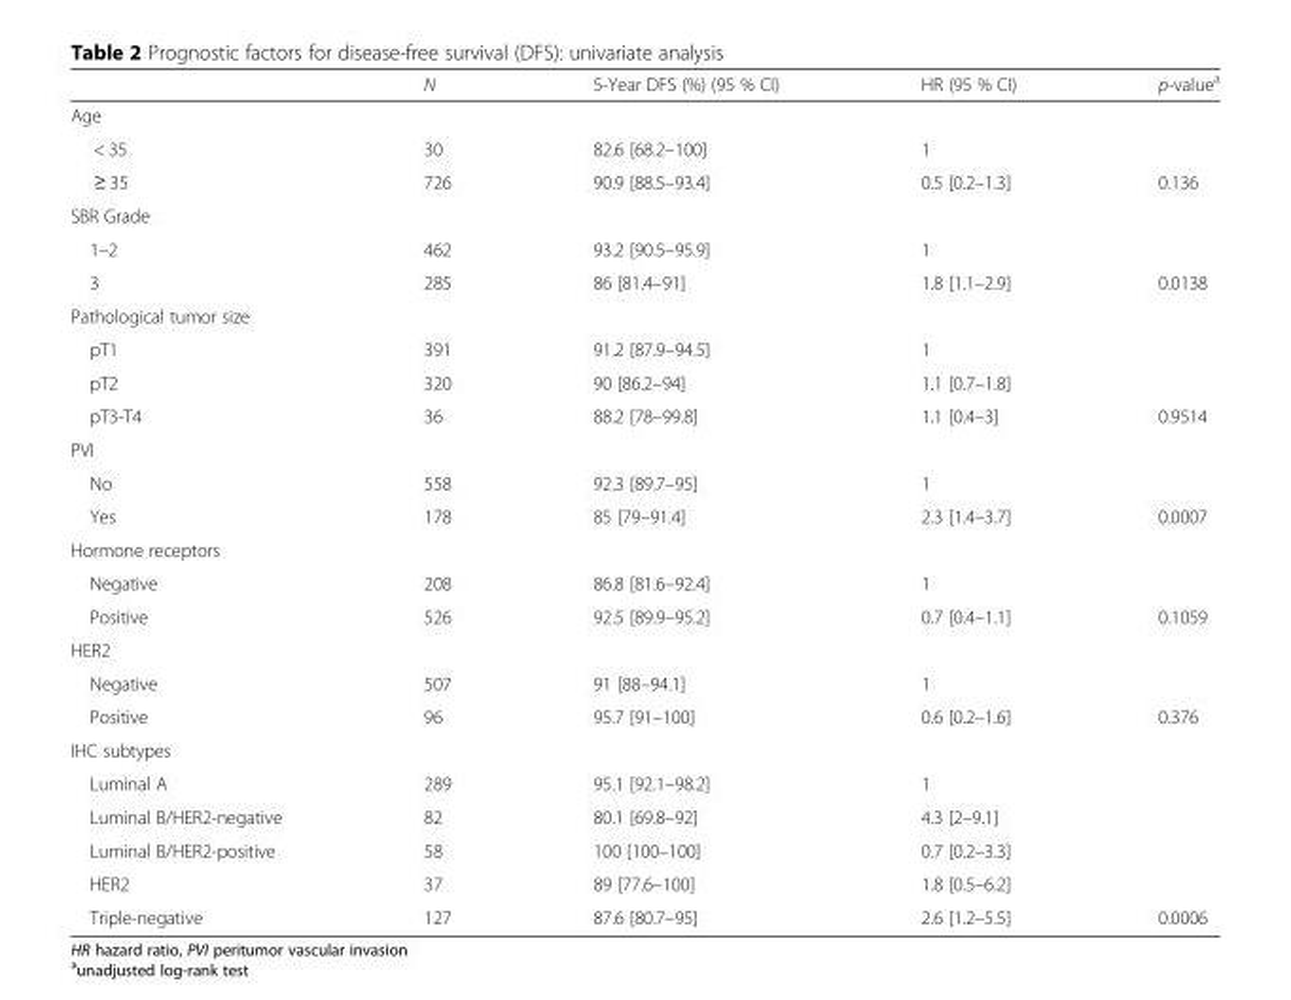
<table><thead><tr><td></td><td>N</td><td>5-Year DFS (%) (95 % CI)</td><td>HR (95 % CI)</td><td>p-value<sup>a</sup></td></tr></thead><tbody><tr><td colspan="5">Age</td></tr><tr><td>&lt; 35</td><td>30</td><td>82.6 [68.2–100]</td><td>1</td><td></td></tr><tr><td>≥ 35</td><td>726</td><td>90.9 [88.5–93.4]</td><td>0.5 [0.2–1.3]</td><td>0.136</td></tr><tr><td colspan="5">SBR Grade</td></tr><tr><td>1–2</td><td>462</td><td>93.2 [90.5–95.9]</td><td>1</td><td></td></tr><tr><td>3</td><td>285</td><td>86 [81.4–91]</td><td>1.8 [1.1–2.9]</td><td>0.0138</td></tr><tr><td colspan="5">Pathological tumor size</td></tr><tr><td>pT1</td><td>391</td><td>91.2 [87.9–94.5]</td><td>1</td><td></td></tr><tr><td>pT2</td><td>320</td><td>90 [86.2–94]</td><td>1.1 [0.7–1.8]</td><td></td></tr><tr><td>pT3-T4</td><td>36</td><td>88.2 [78–99.8]</td><td>1.1 [0.4–3]</td><td>0.9514</td></tr><tr><td colspan="5">PVI</td></tr><tr><td>No</td><td>558</td><td>92.3 [89.7–95]</td><td>1</td><td></td></tr><tr><td>Yes</td><td>178</td><td>85 [79–91.4]</td><td>2.3 [1.4–3.7]</td><td>0.0007</td></tr><tr><td colspan="5">Hormone receptors</td></tr><tr><td>Negative</td><td>208</td><td>86.8 [81.6–92.4]</td><td>1</td><td></td></tr><tr><td>Positive</td><td>526</td><td>92.5 [89.9–95.2]</td><td>0.7 [0.4–1.1]</td><td>0.1059</td></tr><tr><td colspan="5">HER2</td></tr><tr><td>Negative</td><td>507</td><td>91 [88–94.1]</td><td>1</td><td></td></tr><tr><td>Positive</td><td>96</td><td>95.7 [91–100]</td><td>0.6 [0.2–1.6]</td><td>0.376</td></tr><tr><td colspan="5">IHC subtypes</td></tr><tr><td>Luminal A</td><td>289</td><td>95.1 [92.1–98.2]</td><td>1</td><td></td></tr><tr><td>Luminal B/HER2-negative</td><td>82</td><td>80.1 [69.8–92]</td><td>4.3 [2–9.1]</td><td></td></tr><tr><td>Luminal B/HER2-positive</td><td>58</td><td>100 [100–100]</td><td>0.7 [0.2–3.3]</td><td></td></tr><tr><td>HER2</td><td>37</td><td>89 [77.6–100]</td><td>1.8 [0.5–6.2]</td><td></td></tr><tr><td>Triple-negative</td><td>127</td><td>87.6 [80.7–95]</td><td>2.6 [1.2–5.5]</td><td>0.0006</td></tr></tbody></table>